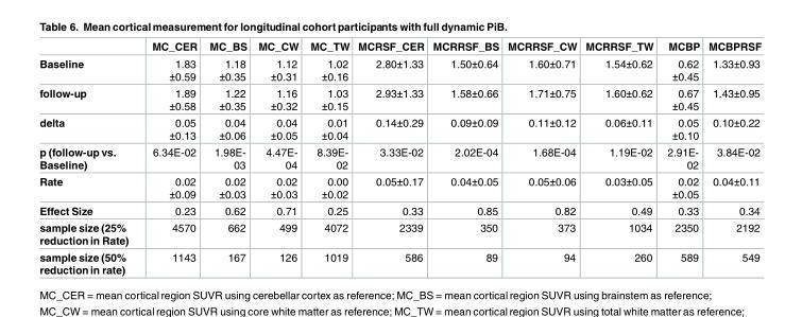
<table><thead><tr><td></td><td>MC_CER</td><td>MC_BS</td><td>MC_CW</td><td>MC_TW</td><td>MCRSF_CER</td><td>MCRRSF_BS</td><td>MCRRSF_CW</td><td>MCRRSF_TW</td><td>MCBP</td><td>MCBPRSF</td></tr></thead><tbody><tr><td>Baseline</td><td>1.83 ±0.59</td><td>1.18 ±0.35</td><td>1.12 ±0.31</td><td>1.02 ±0.16</td><td>2.80±1.33</td><td>1.50±0.64</td><td>1.60±0.71</td><td>1.54±0.62</td><td>0.62 ±0.45</td><td>1.33±0.93</td></tr><tr><td>follow-up</td><td>1.89 ±0.58</td><td>1.22 ±0.35</td><td>1.16 ±0.32</td><td>1.03 ±0.15</td><td>2.93±1.33</td><td>1.58±0.66</td><td>1.71±0.75</td><td>1.60±0.62</td><td>0.67 ±0.45</td><td>1.43±0.95</td></tr><tr><td>delta</td><td>0.05 ±0.13</td><td>0.04 ±0.06</td><td>0.04 ±0.05</td><td>0.01 ±0.04</td><td>0.14±0.29</td><td>0.09±0.09</td><td>0.11±0.12</td><td>0.06±0.11</td><td>0.05 ±0.10</td><td>0.10±0.22</td></tr><tr><td>p (follow-up vs. Baseline)</td><td>6.34E-02</td><td>1.98E- 03</td><td>4.47E- 04</td><td>8.39E- 02</td><td>3.33E-02</td><td>2.02E-04</td><td>1.68E-04</td><td>1.19E-02</td><td>2.91E- 02</td><td>3.84E-02</td></tr><tr><td>Rate</td><td>0.02 ±0.09</td><td>0.02 ±0.03</td><td>0.02 ±0.03</td><td>0.00 ±0.02</td><td>0.05±0.17</td><td>0.04±0.05</td><td>0.05±0.06</td><td>0.03±0.05</td><td>0.02 ±0.05</td><td>0.04±0.11</td></tr><tr><td>Effect Size</td><td>0.23</td><td>0.62</td><td>0.71</td><td>0.25</td><td>0.33</td><td>0.85</td><td>0.82</td><td>0.49</td><td>0.33</td><td>0.34</td></tr><tr><td>sample size (25% reduction in Rate)</td><td>4570</td><td>662</td><td>499</td><td>4072</td><td>2339</td><td>350</td><td>373</td><td>1034</td><td>2350</td><td>2192</td></tr><tr><td>sample size (50% reduction in rate)</td><td>1143</td><td>167</td><td>126</td><td>1019</td><td>586</td><td>89</td><td>94</td><td>260</td><td>589</td><td>549</td></tr></tbody></table>